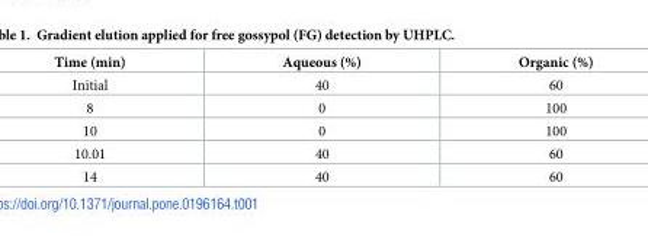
<table><thead><tr><td>Time (min)</td><td>Aqueous (%)</td><td>Organic (%)</td></tr></thead><tbody><tr><td>Initial</td><td>40</td><td>60</td></tr><tr><td>8</td><td>0</td><td>100</td></tr><tr><td>10</td><td>0</td><td>100</td></tr><tr><td>10.01</td><td>40</td><td>60</td></tr><tr><td>14</td><td>40</td><td>60</td></tr></tbody></table>